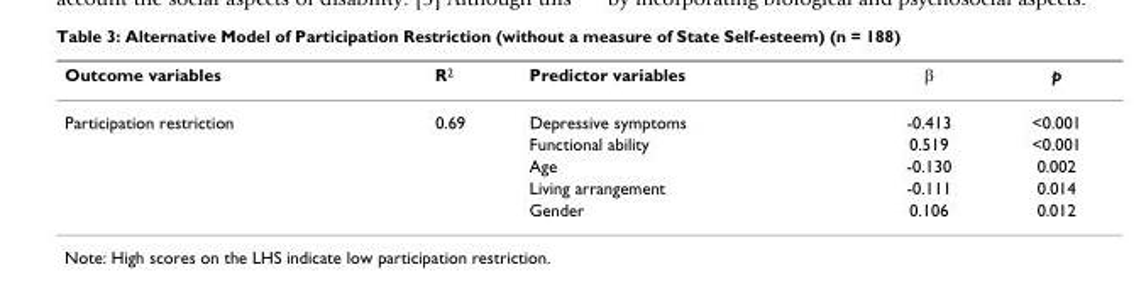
<table><thead><tr><td>Outcome variables</td><td>R<sup>2</sup></td><td>Predictor variables</td><td>β</td><td>p</td></tr></thead><tbody><tr><td rowspan="5">Participation restriction</td><td>0.69</td><td>Depressive symptoms</td><td>-0.413</td><td>&lt;0.001</td></tr><tr><td></td><td>Functional ability</td><td>0.519</td><td>&lt;0.001</td></tr><tr><td></td><td>Age</td><td>-0.130</td><td>0.002</td></tr><tr><td></td><td>Living arrangement</td><td>-0.111</td><td>0.014</td></tr><tr><td></td><td>Gender</td><td>0.106</td><td>0.012</td></tr></tbody></table>